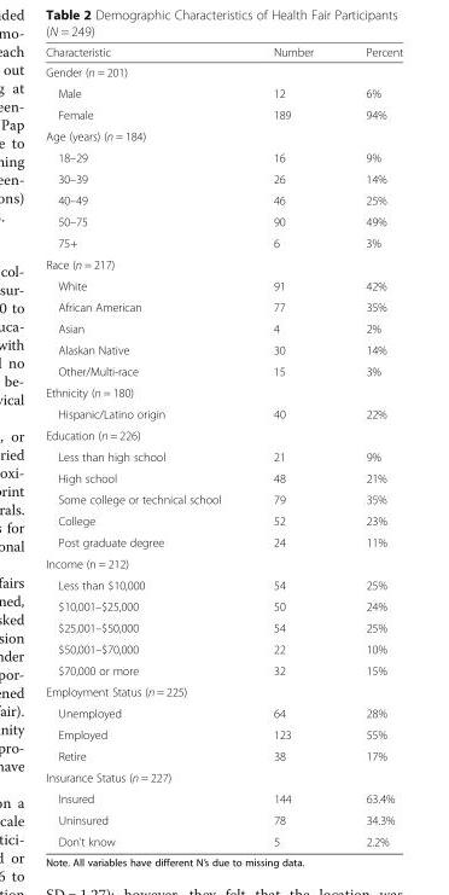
<table><thead><tr><td>Characteristic</td><td>Number</td><td>Percent</td></tr></thead><tbody><tr><td colspan="3">Gender (n = 201)</td></tr><tr><td>Male</td><td>12</td><td>6%</td></tr><tr><td>Female</td><td>189</td><td>94%</td></tr><tr><td colspan="3">Age (years) (n = 184)</td></tr><tr><td>18–29</td><td>16</td><td>9%</td></tr><tr><td>30–39</td><td>26</td><td>14%</td></tr><tr><td>40–49</td><td>46</td><td>25%</td></tr><tr><td>50–75</td><td>90</td><td>49%</td></tr><tr><td>75+</td><td>6</td><td>3%</td></tr><tr><td colspan="3">Race (n = 217)</td></tr><tr><td>White</td><td>91</td><td>42%</td></tr><tr><td>African American</td><td>77</td><td>35%</td></tr><tr><td>Asian</td><td>4</td><td>2%</td></tr><tr><td>Alaskan Native</td><td>30</td><td>14%</td></tr><tr><td>Other/Multi-race</td><td>15</td><td>3%</td></tr><tr><td colspan="3">Ethnicity (n = 180)</td></tr><tr><td>Hispanic/Latino origin</td><td>40</td><td>22%</td></tr><tr><td colspan="3">Education (n = 226)</td></tr><tr><td>Less than high school</td><td>21</td><td>9%</td></tr><tr><td>High school</td><td>48</td><td>21%</td></tr><tr><td>Some college or technical school</td><td>79</td><td>35%</td></tr><tr><td>College</td><td>52</td><td>23%</td></tr><tr><td>Post graduate degree</td><td>24</td><td>11%</td></tr><tr><td colspan="3">Income (n = 212)</td></tr><tr><td>Less than $10,000</td><td>54</td><td>25%</td></tr><tr><td>$10,001–$25,000</td><td>50</td><td>24%</td></tr><tr><td>$25,001–$50,000</td><td>54</td><td>25%</td></tr><tr><td>$50,001–$70,000</td><td>22</td><td>10%</td></tr><tr><td>$70,000 or more</td><td>32</td><td>15%</td></tr><tr><td colspan="3">Employment Status (n = 225)</td></tr><tr><td>Unemployed</td><td>64</td><td>28%</td></tr><tr><td>Employed</td><td>123</td><td>55%</td></tr><tr><td>Retire</td><td>38</td><td>17%</td></tr><tr><td colspan="3">Insurance Status (n = 227)</td></tr><tr><td>Insured</td><td>144</td><td>63.4%</td></tr><tr><td>Uninsured</td><td>78</td><td>34.3%</td></tr><tr><td>Don’t know</td><td>5</td><td>2.2%</td></tr></tbody></table>